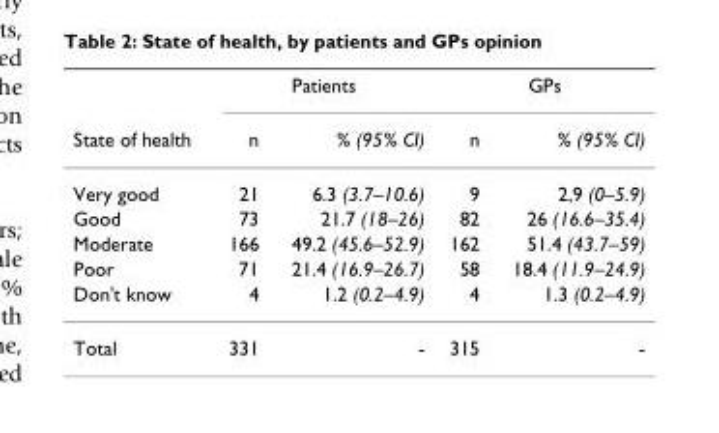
<table><thead><tr><td rowspan="2">State of health</td><td colspan="2">Patients</td><td colspan="2">GPs</td></tr><tr><td>n</td><td>% (95% CI)</td><td>n</td><td>% (95% CI)</td></tr></thead><tbody><tr><td>Very good</td><td>21</td><td>6.3 (3.7–10.6)</td><td>9</td><td>2,9 (0–5.9)</td></tr><tr><td>Good</td><td>73</td><td>21.7 (18–26)</td><td>82</td><td>26 (16.6–35.4)</td></tr><tr><td>Moderate</td><td>166</td><td>49.2 (45.6–52.9)</td><td>162</td><td>51.4 (43.7–59)</td></tr><tr><td>Poor</td><td>71</td><td>21.4 (16.9–26.7)</td><td>58</td><td>18.4 (11.9–24.9)</td></tr><tr><td>Don&#x27;t know</td><td>4</td><td>1.2 (0.2–4.9)</td><td>4</td><td>1.3 (0.2–4.9)</td></tr><tr><td>Total</td><td>331</td><td>-</td><td>315</td><td>-</td></tr></tbody></table>